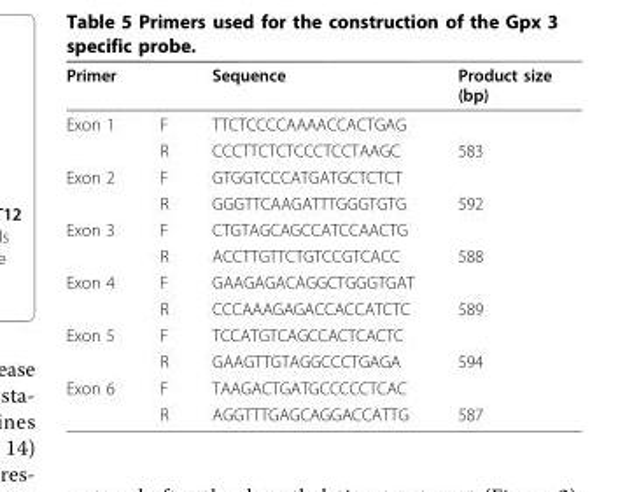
<table><thead><tr><td>Primer</td><td></td><td>Sequence</td><td>Product size (bp)</td></tr></thead><tbody><tr><td rowspan="2">Exon 1</td><td>F</td><td>TTCTCCCCAAAACCACTGAG</td><td></td></tr><tr><td>R</td><td>CCCTTCTCTCCCTCCTAAGC</td><td>583</td></tr><tr><td rowspan="2">Exon 2</td><td>F</td><td>GTGGTCCCATGATGCTCTCT</td><td></td></tr><tr><td>R</td><td>GGGTTCAAGATTTGGGTGTG</td><td>592</td></tr><tr><td rowspan="2">Exon 3</td><td>F</td><td>CTGTAGCAGCCATCCAACTG</td><td></td></tr><tr><td>R</td><td>ACCTTGTTCTGTCCGTCACC</td><td>588</td></tr><tr><td rowspan="2">Exon 4</td><td>F</td><td>GAAGAGACAGGCTGGGTGAT</td><td></td></tr><tr><td>R</td><td>CCCAAAGAGACCACCATCTC</td><td>589</td></tr><tr><td rowspan="2">Exon 5</td><td>F</td><td>TCCATGTCAGCCACTCACTC</td><td></td></tr><tr><td>R</td><td>GAAGTTGTAGGCCCTGAGA</td><td>594</td></tr><tr><td rowspan="2">Exon 6</td><td>F</td><td>TAAGACTGATGCCCCCTCAC</td><td></td></tr><tr><td>R</td><td>AGGTTTGAGCAGGACCATTG</td><td>587</td></tr></tbody></table>